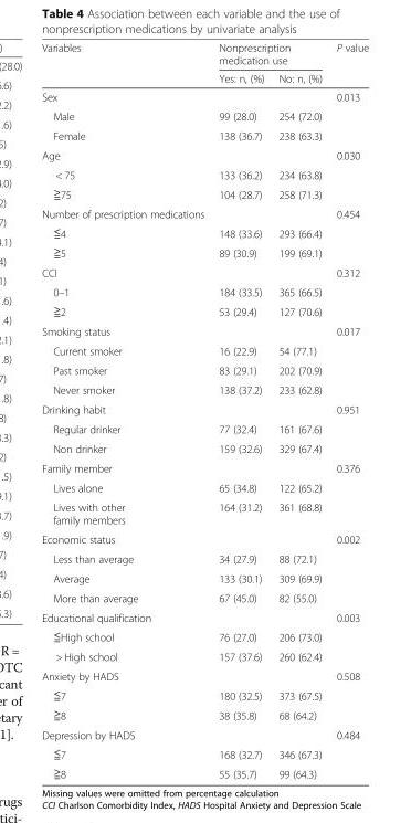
<table><thead><tr><td rowspan="2">Variables</td><td colspan="2">Nonprescription medication use</td><td rowspan="2">P value</td></tr><tr><td>Yes: n, (%)</td><td>No: n, (%)</td></tr></thead><tbody><tr><td>Sex</td><td></td><td></td><td>0.013</td></tr><tr><td>Male</td><td>99 (28.0)</td><td>254 (72.0)</td><td></td></tr><tr><td>Female</td><td>138 (36.7)</td><td>238 (63.3)</td><td></td></tr><tr><td>Age</td><td></td><td></td><td>0.030</td></tr><tr><td>&lt; 75</td><td>133 (36.2)</td><td>234 (63.8)</td><td></td></tr><tr><td>≧75</td><td>104 (28.7)</td><td>258 (71.3)</td><td></td></tr><tr><td>Number of prescription medications</td><td></td><td></td><td>0.454</td></tr><tr><td>≦4</td><td>148 (33.6)</td><td>293 (66.4)</td><td></td></tr><tr><td>≧5</td><td>89 (30.9)</td><td>199 (69.1)</td><td></td></tr><tr><td>CCI</td><td></td><td></td><td>0.312</td></tr><tr><td>0–1</td><td>184 (33.5)</td><td>365 (66.5)</td><td></td></tr><tr><td>≧2</td><td>53 (29.4)</td><td>127 (70.6)</td><td></td></tr><tr><td>Smoking status</td><td></td><td></td><td>0.017</td></tr><tr><td>Current smoker</td><td>16 (22.9)</td><td>54 (77.1)</td><td></td></tr><tr><td>Past smoker</td><td>83 (29.1)</td><td>202 (70.9)</td><td></td></tr><tr><td>Never smoker</td><td>138 (37.2)</td><td>233 (62.8)</td><td></td></tr><tr><td>Drinking habit</td><td></td><td></td><td>0.951</td></tr><tr><td>Regular drinker</td><td>77 (32.4)</td><td>161 (67.6)</td><td></td></tr><tr><td>Non drinker</td><td>159 (32.6)</td><td>329 (67.4)</td><td></td></tr><tr><td>Family member</td><td></td><td></td><td>0.376</td></tr><tr><td>Lives alone</td><td>65 (34.8)</td><td>122 (65.2)</td><td></td></tr><tr><td>Lives with other family members</td><td>164 (31.2)</td><td>361 (68.8)</td><td></td></tr><tr><td>Economic status</td><td></td><td></td><td>0.002</td></tr><tr><td>Less than average</td><td>34 (27.9)</td><td>88 (72.1)</td><td></td></tr><tr><td>Average</td><td>133 (30.1)</td><td>309 (69.9)</td><td></td></tr><tr><td>More than average</td><td>67 (45.0)</td><td>82 (55.0)</td><td></td></tr><tr><td>Educational qualification</td><td></td><td></td><td>0.003</td></tr><tr><td>≦High school</td><td>76 (27.0)</td><td>206 (73.0)</td><td></td></tr><tr><td>&gt; High school</td><td>157 (37.6)</td><td>260 (62.4)</td><td></td></tr><tr><td>Anxiety by HADS</td><td></td><td></td><td>0.508</td></tr><tr><td>≦7</td><td>180 (32.5)</td><td>373 (67.5)</td><td></td></tr><tr><td>≧8</td><td>38 (35.8)</td><td>68 (64.2)</td><td></td></tr><tr><td>Depression by HADS</td><td></td><td></td><td>0.484</td></tr><tr><td>≦7</td><td>168 (32.7)</td><td>346 (67.3)</td><td></td></tr><tr><td>≧8</td><td>55 (35.7)</td><td>99 (64.3)</td><td></td></tr></tbody></table>